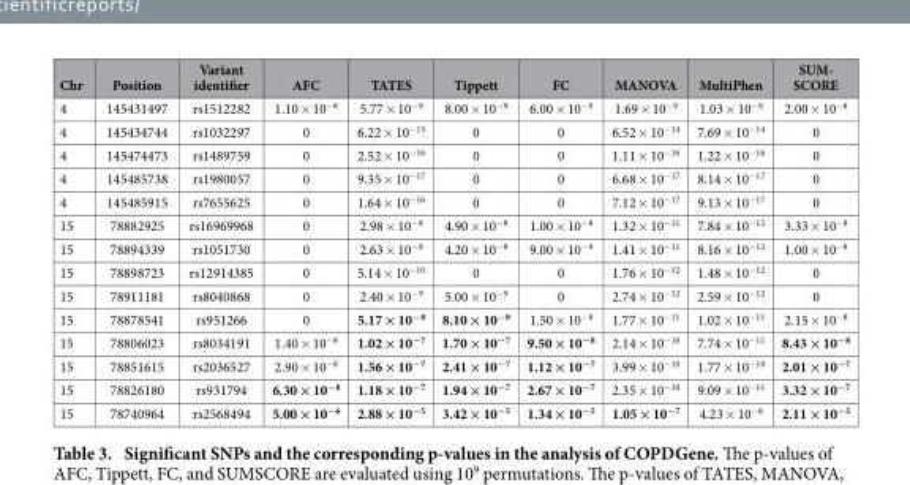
<table><thead><tr><td>Chr</td><td>Position</td><td>Variant identifier</td><td>AFC</td><td>TATES</td><td>Tippett</td><td>FC</td><td>MANOVA</td><td>MultiPhen</td><td>SUM- SCORE</td></tr></thead><tbody><tr><td>4</td><td>145431497</td><td>rs1512282</td><td>1.10 × 10<sup>−8</sup></td><td>5.77 × 10<sup>−9</sup></td><td>8.00 × 10<sup>−9</sup></td><td>6.00 × 10<sup>−9</sup></td><td>1.69 × 10<sup>−9</sup></td><td>1.03 × 10<sup>−9</sup></td><td>2.00 × 10<sup>−8</sup></td></tr><tr><td>4</td><td>145434744</td><td>rs1032297</td><td>0</td><td>6.22 × 10<sup>−13</sup></td><td>0</td><td>0</td><td>6.52 × 10<sup>−14</sup></td><td>7.69 × 10<sup>−14</sup></td><td>0</td></tr><tr><td>4</td><td>145474473</td><td>rs1489759</td><td>0</td><td>2.52 × 10<sup>−16</sup></td><td>0</td><td>0</td><td>1.11 × 10<sup>−16</sup></td><td>1.22 × 10<sup>−16</sup></td><td>0</td></tr><tr><td>4</td><td>145485738</td><td>rs1980057</td><td>0</td><td>9.35 × 10<sup>−17</sup></td><td>0</td><td>0</td><td>6.68 × 10<sup>−17</sup></td><td>8.14 × 10<sup>−17</sup></td><td>0</td></tr><tr><td>4</td><td>145485915</td><td>rs7655625</td><td>0</td><td>1.64 × 10<sup>−16</sup></td><td>0</td><td>0</td><td>7.12 × 10<sup>−17</sup></td><td>9.13 × 10<sup>−17</sup></td><td>0</td></tr><tr><td>15</td><td>78882925</td><td>rs16969968</td><td>0</td><td>2.98 × 10<sup>−8</sup></td><td>4.90 × 10<sup>−8</sup></td><td>1.00 × 10<sup>−8</sup></td><td>1.32 × 10<sup>−11</sup></td><td>7.84 × 10<sup>−12</sup></td><td>3.33 × 10<sup>−8</sup></td></tr><tr><td>15</td><td>78894339</td><td>rs1051730</td><td>0</td><td>2.63 × 10<sup>−8</sup></td><td>4.20 × 10<sup>−8</sup></td><td>9.00 × 10<sup>−9</sup></td><td>1.41 × 10<sup>−11</sup></td><td>8.16 × 10<sup>−12</sup></td><td>1.00 × 10<sup>−8</sup></td></tr><tr><td>15</td><td>78898723</td><td>rs12914385</td><td>0</td><td>5.14 × 10<sup>−10</sup></td><td>0</td><td>0</td><td>1.76 × 10<sup>−12</sup></td><td>1.48 × 10<sup>−12</sup></td><td>0</td></tr><tr><td>15</td><td>78911181</td><td>rs8040868</td><td>0</td><td>2.40 × 10<sup>−9</sup></td><td>5.00 × 10<sup>−9</sup></td><td>0</td><td>2.74 × 10<sup>−12</sup></td><td>2.59 × 10<sup>−12</sup></td><td>0</td></tr><tr><td>15</td><td>78878541</td><td>rs951266</td><td>0</td><td>5.17 × 10<sup>−8</sup></td><td>8.10 × 10<sup>−8</sup></td><td>1.50 × 10<sup>−8</sup></td><td>1.77 × 10<sup>−11</sup></td><td>1.02 × 10<sup>−11</sup></td><td>2.15 × 10<sup>−8</sup></td></tr><tr><td>15</td><td>78806023</td><td>rs8034191</td><td>1.40 × 10<sup>−8</sup></td><td>1.02 × 10<sup>−7</sup></td><td>1.70 × 10<sup>−7</sup></td><td>9.50 × 10<sup>−8</sup></td><td>2.14 × 10<sup>−10</sup></td><td>7.74 × 10<sup>−11</sup></td><td>8.43 × 10<sup>−8</sup></td></tr><tr><td>15</td><td>78851615</td><td>rs2036527</td><td>2.90 × 10<sup>−8</sup></td><td>1.56 × 10<sup>−7</sup></td><td>2.41 × 10<sup>−7</sup></td><td>1.12 × 10<sup>−7</sup></td><td>3.99 × 10<sup>−10</sup></td><td>1.77 × 10<sup>−10</sup></td><td>2.01 × 10<sup>−7</sup></td></tr><tr><td>15</td><td>78826180</td><td>rs931794</td><td>6.30 × 10<sup>−8</sup></td><td>1.18 × 10<sup>−7</sup></td><td>1.94 × 10<sup>−7</sup></td><td>2.67 × 10<sup>−7</sup></td><td>2.35 × 10<sup>−10</sup></td><td>9.09 × 10<sup>−11</sup></td><td>3.32 × 10<sup>−7</sup></td></tr><tr><td>15</td><td>78740964</td><td>rs2568494</td><td>5.00 × 10<sup>−6</sup></td><td>2.88 × 10<sup>−5</sup></td><td>3.42 × 10<sup>−5</sup></td><td>1.34 × 10<sup>−5</sup></td><td>1.05 × 10<sup>−7</sup></td><td>4.23 × 10<sup>−8</sup></td><td>2.11 × 10<sup>−5</sup></td></tr></tbody></table>